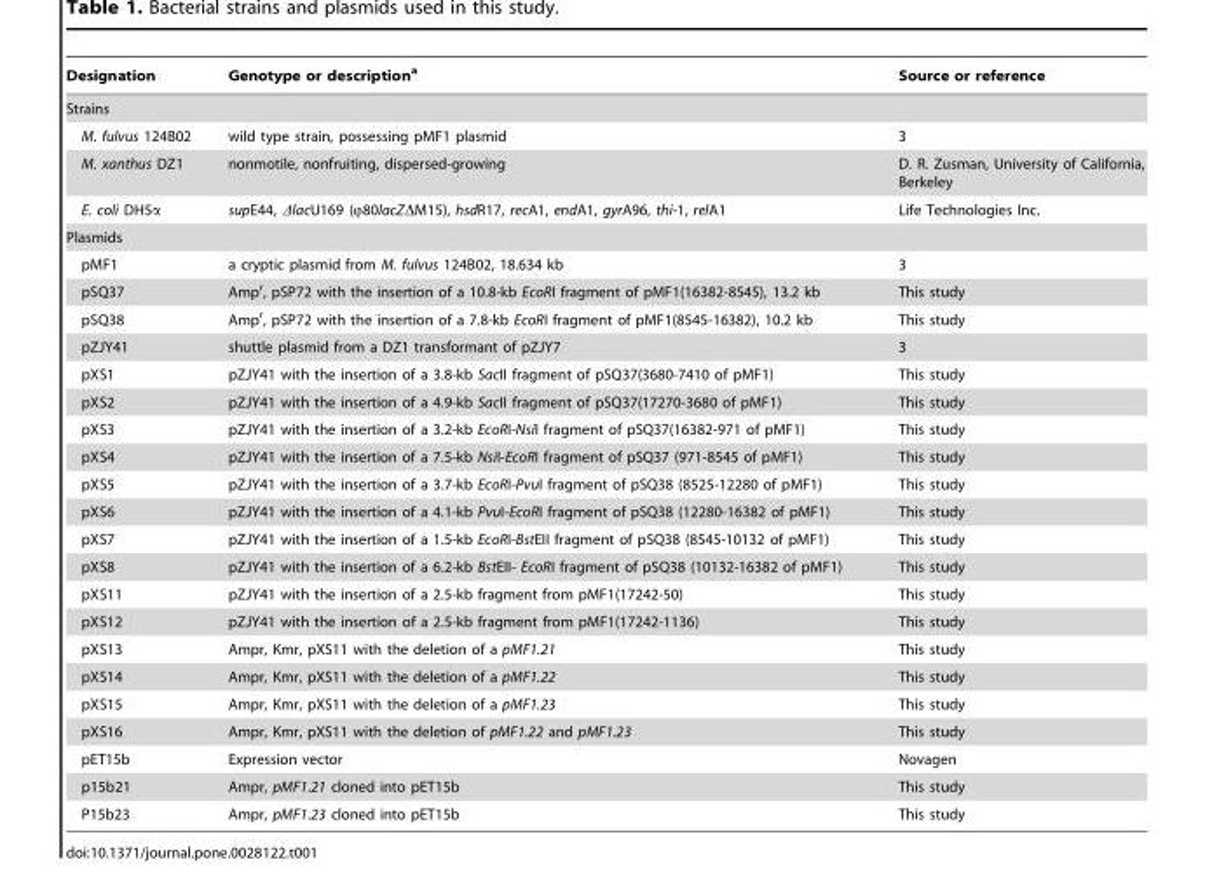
<table><thead><tr><td>Designation</td><td>Genotype or description<sup>a</sup></td><td>Source or reference</td></tr></thead><tbody><tr><td colspan="3">Strains</td></tr><tr><td>M. fulvus 124B02</td><td>wild type strain, possessing pMF1 plasmid</td><td>3</td></tr><tr><td>M. xanthus DZ1</td><td>nonmotile, nonfruiting, dispersed-growing</td><td>D. R. Zusman, University of California, Berkeley</td></tr><tr><td>E. coli DH5α</td><td>supE44, ΔlacU169 (ϕ80lacZΔM15), hsdR17, recA1, endA1, gyrA96, thi-1, relA1</td><td>Life Technologies Inc.</td></tr><tr><td colspan="3">Plasmids</td></tr><tr><td>pMF1</td><td>a cryptic plasmid from M. fulvus 124B02, 18.634 kb</td><td>3</td></tr><tr><td>pSQ37</td><td>Amp<sup>r</sup>, pSP72 with the insertion of a 10.8-kb EcoRI fragment of pMF1(16382-8545), 13.2 kb</td><td>This study</td></tr><tr><td>pSQ38</td><td>Amp<sup>r</sup>, pSP72 with the insertion of a 7.8-kb EcoRI fragment of pMF1(8545-16382), 10.2 kb</td><td>This study</td></tr><tr><td>pZJY41</td><td>shuttle plasmid from a DZ1 transformant of pZJY7</td><td>3</td></tr><tr><td>pXS1</td><td>pZJY41 with the insertion of a 3.8-kb SacII fragment of pSQ37(3680-7410 of pMF1)</td><td>This study</td></tr><tr><td>pXS2</td><td>pZJY41 with the insertion of a 4.9-kb SacII fragment of pSQ37(17270-3680 of pMF1)</td><td>This study</td></tr><tr><td>pXS3</td><td>pZJY41 with the insertion of a 3.2-kb EcoRI-NsiI fragment of pSQ37(16382-971 of pMF1)</td><td>This study</td></tr><tr><td>pXS4</td><td>pZJY41 with the insertion of a 7.5-kb NsiI-EcoRI fragment of pSQ37 (971-8545 of pMF1)</td><td>This study</td></tr><tr><td>pXS5</td><td>pZJY41 with the insertion of a 3.7-kb EcoRI-PvuI fragment of pSQ38 (8525-12280 of pMF1)</td><td>This study</td></tr><tr><td>pXS6</td><td>pZJY41 with the insertion of a 4.1-kb PvuI-EcoRI fragment of pSQ38 (12280-16382 of pMF1)</td><td>This study</td></tr><tr><td>pXS7</td><td>pZJY41 with the insertion of a 1.5-kb EcoRI-BstEII fragment of pSQ38 (8545-10132 of pMF1)</td><td>This study</td></tr><tr><td>pXS8</td><td>pZJY41 with the insertion of a 6.2-kb BstEII- EcoRI fragment of pSQ38 (10132-16382 of pMF1)</td><td>This study</td></tr><tr><td>pXS11</td><td>pZJY41 with the insertion of a 2.5-kb fragment from pMF1(17242-50)</td><td>This study</td></tr><tr><td>pXS12</td><td>pZJY41 with the insertion of a 2.5-kb fragment from pMF1(17242-1136)</td><td>This study</td></tr><tr><td>pXS13</td><td>Ampr, Kmr, pXS11 with the deletion of a pMF1.21</td><td>This study</td></tr><tr><td>pXS14</td><td>Ampr, Kmr, pXS11 with the deletion of a pMF1.22</td><td>This study</td></tr><tr><td>pXS15</td><td>Ampr, Kmr, pXS11 with the deletion of a pMF1.23</td><td>This study</td></tr><tr><td>pXS16</td><td>Ampr, Kmr, pXS11 with the deletion of pMF1.22 and pMF1.23</td><td>This study</td></tr><tr><td>pET15b</td><td>Expression vector</td><td>Novagen</td></tr><tr><td>p15b21</td><td>Ampr, pMF1.21 cloned into pET15b</td><td>This study</td></tr><tr><td>P15b23</td><td>Ampr, pMF1.23 cloned into pET15b</td><td>This study</td></tr></tbody></table>